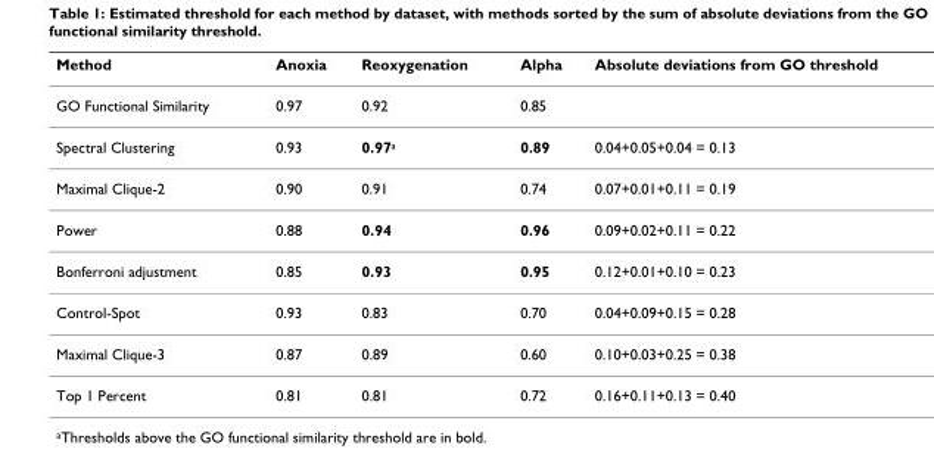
<table><thead><tr><td>Method</td><td>Anoxia</td><td>Reoxygenation</td><td>Alpha</td><td>Absolute deviations from GO threshold</td></tr></thead><tbody><tr><td>GO Functional Similarity</td><td>0.97</td><td>0.92</td><td>0.85</td><td></td></tr><tr><td>Spectral Clustering</td><td>0.93</td><td>0.97<sup>a</sup></td><td>0.89</td><td>0.04+0.05+0.04 = 0.13</td></tr><tr><td>Maximal Clique-2</td><td>0.90</td><td>0.91</td><td>0.74</td><td>0.07+0.01+0.11 = 0.19</td></tr><tr><td>Power</td><td>0.88</td><td>0.94</td><td>0.96</td><td>0.09+0.02+0.11 = 0.22</td></tr><tr><td>Bonferroni adjustment</td><td>0.85</td><td>0.93</td><td>0.95</td><td>0.12+0.01+0.10 = 0.23</td></tr><tr><td>Control-Spot</td><td>0.93</td><td>0.83</td><td>0.70</td><td>0.04+0.09+0.15 = 0.28</td></tr><tr><td>Maximal Clique-3</td><td>0.87</td><td>0.89</td><td>0.60</td><td>0.10+0.03+0.25 = 0.38</td></tr><tr><td>Top 1 Percent</td><td>0.81</td><td>0.81</td><td>0.72</td><td>0.16+0.11+0.13 = 0.40</td></tr></tbody></table>